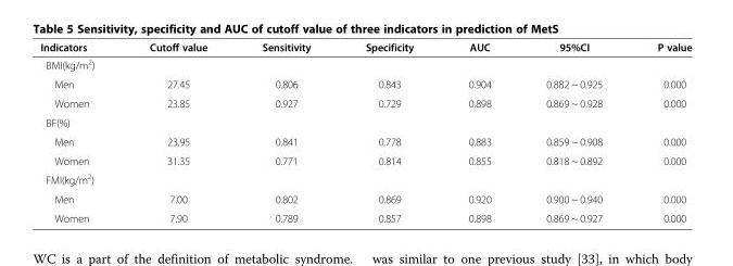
<table><thead><tr><td>Indicators</td><td>Cutoff value</td><td>Sensitivity</td><td>Specificity</td><td>AUC</td><td>95%CI</td><td>P value</td></tr></thead><tbody><tr><td colspan="7">BMI(kg/m<sup>2</sup>)</td></tr><tr><td>Men</td><td>27.45</td><td>0.806</td><td>0.843</td><td>0.904</td><td>0.882 ~ 0.925</td><td>0.000</td></tr><tr><td>Women</td><td>23.85</td><td>0.927</td><td>0.729</td><td>0.898</td><td>0.869 ~ 0.928</td><td>0.000</td></tr><tr><td colspan="7">BF(%)</td></tr><tr><td>Men</td><td>23.95</td><td>0.841</td><td>0.778</td><td>0.883</td><td>0.859 ~ 0.908</td><td>0.000</td></tr><tr><td>Women</td><td>31.35</td><td>0.771</td><td>0.814</td><td>0.855</td><td>0.818 ~ 0.892</td><td>0.000</td></tr><tr><td colspan="7">FMI(kg/m<sup>2</sup>)</td></tr><tr><td>Men</td><td>7.00</td><td>0.802</td><td>0.869</td><td>0.920</td><td>0.900 ~ 0.940</td><td>0.000</td></tr><tr><td>Women</td><td>7.90</td><td>0.789</td><td>0.857</td><td>0.898</td><td>0.869 ~ 0.927</td><td>0.000</td></tr></tbody></table>